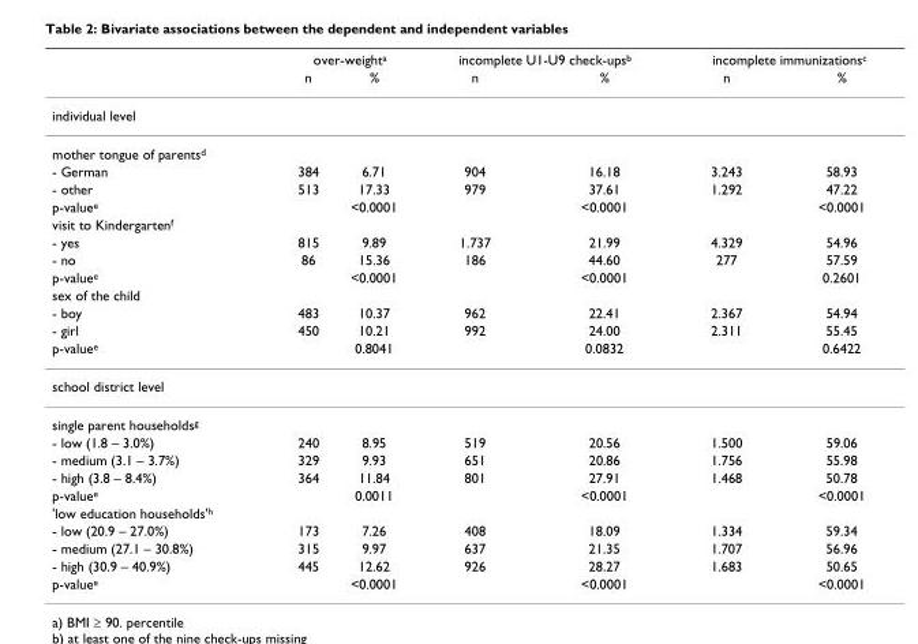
<table><thead><tr><td rowspan="2"></td><td colspan="2">over-weight<sup>a</sup></td><td colspan="2">incomplete U1-U9 check-ups<sup>b</sup></td><td colspan="2">incomplete immunizations<sup>c</sup></td></tr><tr><td>n</td><td>%</td><td>n</td><td>%</td><td>n</td><td>%</td></tr></thead><tbody><tr><td colspan="7">individual level</td></tr><tr><td colspan="7">mother tongue of parents<sup>d</sup></td></tr><tr><td>- German</td><td>384</td><td>6.71</td><td>904</td><td>16.18</td><td>3.243</td><td>58.93</td></tr><tr><td>- other</td><td>513</td><td>17.33</td><td>979</td><td>37.61</td><td>1.292</td><td>47.22</td></tr><tr><td>p-value<sup>e</sup></td><td></td><td>&lt;0.0001</td><td></td><td>&lt;0.0001</td><td></td><td>&lt;0.0001</td></tr><tr><td colspan="7">visit to Kindergarten<sup>f</sup></td></tr><tr><td>- yes</td><td>815</td><td>9.89</td><td>1.737</td><td>21.99</td><td>4.329</td><td>54.96</td></tr><tr><td>- no</td><td>86</td><td>15.36</td><td>186</td><td>44.60</td><td>277</td><td>57.59</td></tr><tr><td>p-value<sup>e</sup></td><td></td><td>&lt;0.0001</td><td></td><td>&lt;0.0001</td><td></td><td>0.2601</td></tr><tr><td colspan="7">sex of the child</td></tr><tr><td>- boy</td><td>483</td><td>10.37</td><td>962</td><td>22.41</td><td>2.367</td><td>54.94</td></tr><tr><td>- girl</td><td>450</td><td>10.21</td><td>992</td><td>24.00</td><td>2.311</td><td>55.45</td></tr><tr><td>p-value<sup>e</sup></td><td></td><td>0.8041</td><td></td><td>0.0832</td><td></td><td>0.6422</td></tr><tr><td colspan="7">school district level</td></tr><tr><td colspan="7">single parent households<sup>g</sup></td></tr><tr><td>- low (1.8 – 3.0%)</td><td>240</td><td>8.95</td><td>519</td><td>20.56</td><td>1.500</td><td>59.06</td></tr><tr><td>- medium (3.1 – 3.7%)</td><td>329</td><td>9.93</td><td>651</td><td>20.86</td><td>1.756</td><td>55.98</td></tr><tr><td>- high (3.8 – 8.4%)</td><td>364</td><td>11.84</td><td>801</td><td>27.91</td><td>1.468</td><td>50.78</td></tr><tr><td>p-value<sup>e</sup></td><td></td><td>0.0011</td><td></td><td>&lt;0.0001</td><td></td><td>&lt;0.0001</td></tr><tr><td colspan="7">&#x27;low education households&#x27;<sup>h</sup></td></tr><tr><td>- low (20.9 – 27.0%)</td><td>173</td><td>7.26</td><td>408</td><td>18.09</td><td>1.334</td><td>59.34</td></tr><tr><td>- medium (27.1 – 30.8%)</td><td>315</td><td>9.97</td><td>637</td><td>21.35</td><td>1.707</td><td>56.96</td></tr><tr><td>- high (30.9 – 40.9%)</td><td>445</td><td>12.62</td><td>926</td><td>28.27</td><td>1.683</td><td>50.65</td></tr><tr><td>p-value<sup>e</sup></td><td></td><td>&lt;0.0001</td><td></td><td>&lt;0.0001</td><td></td><td>&lt;0.0001</td></tr></tbody></table>